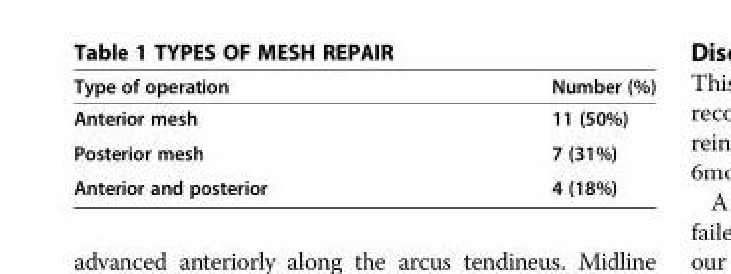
<table><thead><tr><td>Type of operation</td><td>Number (%)</td></tr></thead><tbody><tr><td>Anterior mesh</td><td>11 (50%)</td></tr><tr><td>Posterior mesh</td><td>7 (31%)</td></tr><tr><td>Anterior and posterior</td><td>4 (18%)</td></tr></tbody></table>